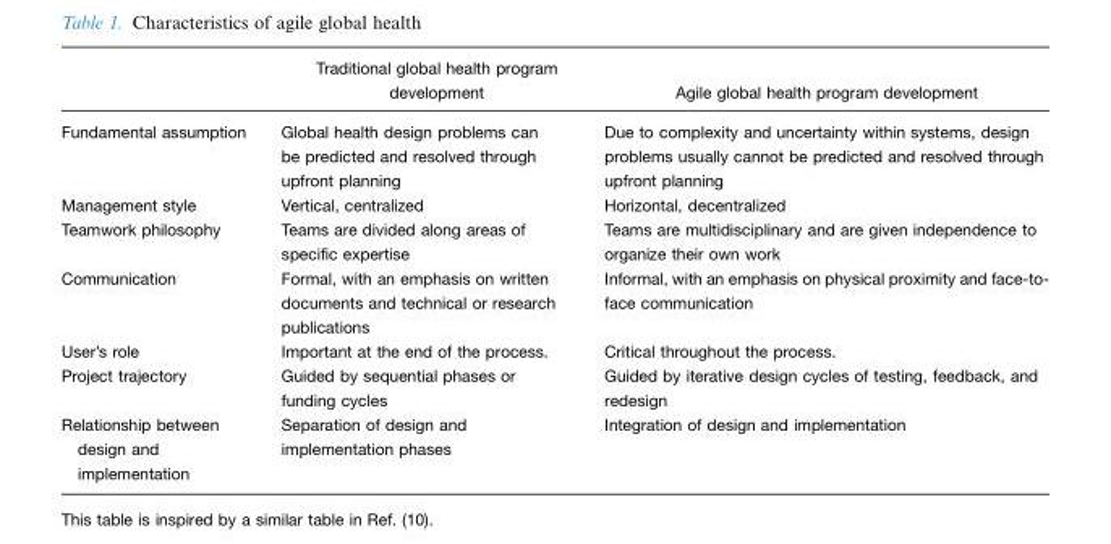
<table><thead><tr><td></td><td>Traditional global health program development</td><td>Agile global health program development</td></tr></thead><tbody><tr><td>Fundamental assumption</td><td>Global health design problems can be predicted and resolved through upfront planning</td><td>Due to complexity and uncertainty within systems, design problems usually cannot be predicted and resolved through upfront planning</td></tr><tr><td>Management style</td><td>Vertical, centralized</td><td>Horizontal, decentralized</td></tr><tr><td>Teamwork philosophy</td><td>Teams are divided along areas of specific expertise</td><td>Teams are multidisciplinary and are given independence to organize their own work</td></tr><tr><td>Communication</td><td>Formal, with an emphasis on written documents and technical or research publications</td><td>Informal, with an emphasis on physical proximity and face-to- face communication</td></tr><tr><td>User’s role</td><td>Important at the end of the process.</td><td>Critical throughout the process.</td></tr><tr><td>Project trajectory</td><td>Guided by sequential phases or funding cycles</td><td>Guided by iterative design cycles of testing, feedback, and redesign</td></tr><tr><td>Relationship between design and implementation</td><td>Separation of design and implementation phases</td><td>Integration of design and implementation</td></tr></tbody></table>